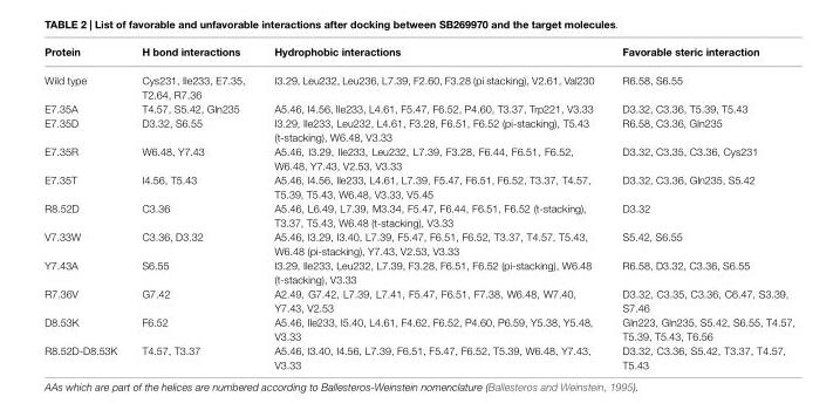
<table><thead><tr><td>Protein</td><td>H bond interactions</td><td>Hydrophobic interactions</td><td>Favorable steric interaction</td></tr></thead><tbody><tr><td>Wild type</td><td>Cys231, Ile233, E7.35, T2.64, R7.36</td><td>I3.29, Leu232, Leu236, L7.39, F2.60, F3.28 (pi stacking), V2.61, Val230</td><td>R6.58, S6.55</td></tr><tr><td>E7.35A</td><td>T4.57, S5.42, Gln235</td><td>A5.46, I4.56, Ile233, L4.61, F5.47, F6.52, P4.60, T3.37, Trp221, V3.33</td><td>D3.32, C3.36, T5.39, T5.43</td></tr><tr><td>E7.35D</td><td>D3.32, S6.55</td><td>I3.29, Ile233, Leu232, L4.61, F3.28, F6.51, F6.52 (pi-stacking), T5.43 (t-stacking), W6.48, V3.33</td><td>R6.58, C3.36, Gln235</td></tr><tr><td>E7.35R</td><td>W6.48, Y7.43</td><td>A5.46, I3.29, Ile233, Leu232, L7.39, F3.28, F6.44, F6.51, F6.52, W6.48, Y7.43, V2.53, V3.33</td><td>D3.32, C3.35, C3.36, Cys231</td></tr><tr><td>E7.35T</td><td>I4.56, T5.43</td><td>A5.46, I4.56, Ile233, L4.61, L7.39, F5.47, F6.51, F6.52, T3.37, T4.57, T5.39, T5.43, W6.48, V3.33, V5.45</td><td>D3.32, C3.36, Gln235, S5.42</td></tr><tr><td>R8.52D</td><td>C3.36</td><td>A5.46, L6.49, L7.39, M3.34, F5.47, F6.44, F6.51, F6.52 (t-stacking), T3.37, T5.43, W6.48 (t-stacking), V3.33</td><td>D3.32</td></tr><tr><td>V7.33W</td><td>C3.36, D3.32</td><td>A5.46, I3.29, I3.40, L7.39, F5.47, F6.51, F6.52, T3.37, T4.57, T5.43, W6.48 (pi-stacking), Y7.43, V2.53, V3.33</td><td>S5.42, S6.55</td></tr><tr><td>Y7.43A</td><td>S6.55</td><td>I3.29, Ile233, Leu232, L7.39, F3.28, F6.51, F6.52 (pi-stacking), W6.48 (t-stacking), V3.33</td><td>R6.58, D3.32, C3.36, S6.55</td></tr><tr><td>R7.36V</td><td>G7.42</td><td>A2.49, G7.42, L7.39, L7.41, F5.47, F6.51, F7.38, W6.48, W7.40, Y7.43, V2.53</td><td>D3.32, C3.35, C3.36, C6.47, S3.39, S7.46</td></tr><tr><td>D8.53K</td><td>F6.52</td><td>A5.46, Ile233, I5.40, L4.61, F4.62, F6.52, P4.60, P6.59, Y5.38, Y5.48, V3.33</td><td>Gln223, Gln235, S5.42, S6.55, T4.57, T5.39, T5.43, T6.56</td></tr><tr><td>R8.52D-D8.53K</td><td>T4.57, T3.37</td><td>A5.46, I3.40, I4.56, L7.39, F6.51, F5.47, F6.52, T5.39, W6.48, Y7.43, V3.33</td><td>D3.32, C3.36, S5.42, T3.37, T4.57, T5.43</td></tr></tbody></table>